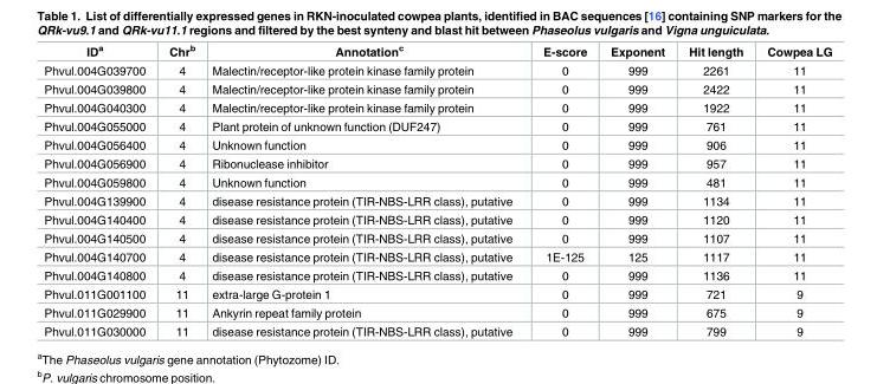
<table><thead><tr><td>ID<sup>a</sup></td><td>Chr<sup>b</sup></td><td>Annotation<sup>c</sup></td><td>E-score</td><td>Exponent</td><td>Hit length</td><td>Cowpea LG</td></tr></thead><tbody><tr><td>Phvul.004G039700</td><td>4</td><td>Malectin/receptor-like protein kinase family protein</td><td>0</td><td>999</td><td>2261</td><td>11</td></tr><tr><td>Phvul.004G039800</td><td>4</td><td>Malectin/receptor-like protein kinase family protein</td><td>0</td><td>999</td><td>2422</td><td>11</td></tr><tr><td>Phvul.004G040300</td><td>4</td><td>Malectin/receptor-like protein kinase family protein</td><td>0</td><td>999</td><td>1922</td><td>11</td></tr><tr><td>Phvul.004G055000</td><td>4</td><td>Plant protein of unknown function (DUF247)</td><td>0</td><td>999</td><td>761</td><td>11</td></tr><tr><td>Phvul.004G056400</td><td>4</td><td>Unknown function</td><td>0</td><td>999</td><td>906</td><td>11</td></tr><tr><td>Phvul.004G056900</td><td>4</td><td>Ribonuclease inhibitor</td><td>0</td><td>999</td><td>957</td><td>11</td></tr><tr><td>Phvul.004G059800</td><td>4</td><td>Unknown function</td><td>0</td><td>999</td><td>481</td><td>11</td></tr><tr><td>Phvul.004G139900</td><td>4</td><td>disease resistance protein (TIR-NBS-LRR class), putative</td><td>0</td><td>999</td><td>1134</td><td>11</td></tr><tr><td>Phvul.004G140400</td><td>4</td><td>disease resistance protein (TIR-NBS-LRR class), putative</td><td>0</td><td>999</td><td>1120</td><td>11</td></tr><tr><td>Phvul.004G140500</td><td>4</td><td>disease resistance protein (TIR-NBS-LRR class), putative</td><td>0</td><td>999</td><td>1107</td><td>11</td></tr><tr><td>Phvul.004G140700</td><td>4</td><td>disease resistance protein (TIR-NBS-LRR class), putative</td><td>1E-125</td><td>125</td><td>1117</td><td>11</td></tr><tr><td>Phvul.004G140800</td><td>4</td><td>disease resistance protein (TIR-NBS-LRR class), putative</td><td>0</td><td>999</td><td>1136</td><td>11</td></tr><tr><td>Phvul.011G001100</td><td>11</td><td>extra-large G-protein 1</td><td>0</td><td>999</td><td>721</td><td>9</td></tr><tr><td>Phvul.011G029900</td><td>11</td><td>Ankyrin repeat family protein</td><td>0</td><td>999</td><td>675</td><td>9</td></tr><tr><td>Phvul.011G030000</td><td>11</td><td>disease resistance protein (TIR-NBS-LRR class), putative</td><td>0</td><td>999</td><td>799</td><td>9</td></tr></tbody></table>